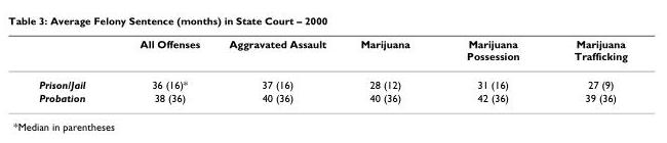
<table><thead><tr><td></td><td>All Offenses</td><td>Aggravated Assault</td><td>Marijuana</td><td>Marijuana Possession</td><td>Marijuana Trafficking</td></tr></thead><tbody><tr><td>Prison/Jail</td><td>36 (16)*</td><td>37 (16)</td><td>28 (12)</td><td>31 (16)</td><td>27 (9)</td></tr><tr><td>Probation</td><td>38 (36)</td><td>40 (36)</td><td>40 (36)</td><td>42 (36)</td><td>39 (36)</td></tr></tbody></table>